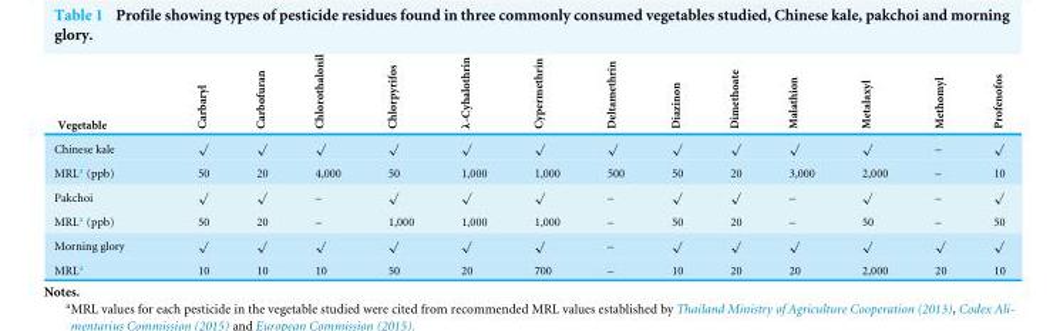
<table><thead><tr><td>Vegetable</td><td>Carbaryl</td><td>Carbofuran</td><td>Chlorothalonil</td><td>Chlorpyrifos</td><td>λ-Cyhalothrin</td><td>Cypermethrin</td><td>Deltamethrin</td><td>Diazinon</td><td>Dimethoate</td><td>Malathion</td><td>Metalaxyl</td><td>Methomyl</td><td>Profenofos</td></tr></thead><tbody><tr><td>Chinese kale</td><td>√</td><td>√</td><td>√</td><td>√</td><td>√</td><td>√</td><td>√</td><td>√</td><td>√</td><td>√</td><td>√</td><td>–</td><td>√</td></tr><tr><td>MRL<sup>a</sup> (ppb)</td><td>50</td><td>20</td><td>4,000</td><td>50</td><td>1,000</td><td>1,000</td><td>500</td><td>50</td><td>20</td><td>3,000</td><td>2,000</td><td>–</td><td>10</td></tr><tr><td>Pakchoi</td><td>√</td><td>√</td><td>–</td><td>√</td><td>√</td><td>√</td><td>–</td><td>√</td><td>√</td><td>–</td><td>√</td><td>–</td><td>√</td></tr><tr><td>MRL<sup>a</sup> (ppb)</td><td>50</td><td>20</td><td>–</td><td>1,000</td><td>1,000</td><td>1,000</td><td>–</td><td>50</td><td>20</td><td>–</td><td>50</td><td>–</td><td>50</td></tr><tr><td>Morning glory</td><td>√</td><td>√</td><td>√</td><td>√</td><td>√</td><td>√</td><td>–</td><td>√</td><td>√</td><td>√</td><td>√</td><td>√</td><td>√</td></tr><tr><td>MRL<sup>a</sup></td><td>10</td><td>10</td><td>10</td><td>50</td><td>20</td><td>700</td><td>–</td><td>10</td><td>20</td><td>20</td><td>2,000</td><td>20</td><td>10</td></tr></tbody></table>